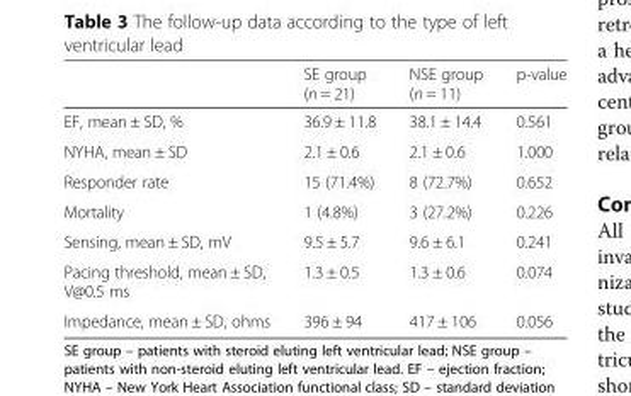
<table><thead><tr><td></td><td>SE group (n = 21)</td><td>NSE group (n = 11)</td><td>p-value</td></tr></thead><tbody><tr><td>EF, mean ± SD, %</td><td>36.9 ± 11.8</td><td>38.1 ± 14.4</td><td>0.561</td></tr><tr><td>NYHA, mean ± SD</td><td>2.1 ± 0.6</td><td>2.1 ± 0.6</td><td>1.000</td></tr><tr><td>Responder rate</td><td>15 (71.4%)</td><td>8 (72.7%)</td><td>0.652</td></tr><tr><td>Mortality</td><td>1 (4.8%)</td><td>3 (27.2%)</td><td>0.226</td></tr><tr><td>Sensing, mean ± SD, mV</td><td>9.5 ± 5.7</td><td>9.6 ± 6.1</td><td>0.241</td></tr><tr><td>Pacing threshold, mean ± SD, V@0.5 ms</td><td>1.3 ± 0.5</td><td>1.3 ± 0.6</td><td>0.074</td></tr><tr><td>Impedance, mean ± SD, ohms</td><td>396 ± 94</td><td>417 ± 106</td><td>0.056</td></tr></tbody></table>